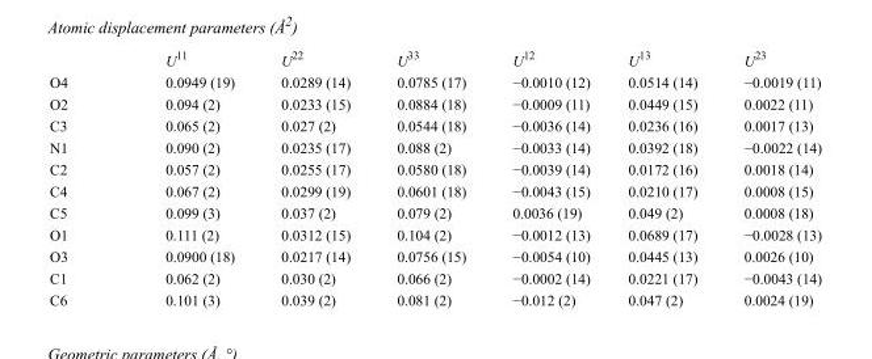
<table><thead><tr><td></td><td>U<sup>11</sup></td><td>U<sup>22</sup></td><td>U<sup>33</sup></td><td>U<sup>12</sup></td><td>U<sup>13</sup></td><td>U<sup>23</sup></td></tr></thead><tbody><tr><td>O4</td><td>0.0949 (19)</td><td>0.0289 (14)</td><td>0.0785 (17)</td><td>−0.0010 (12)</td><td>0.0514 (14)</td><td>−0.0019 (11)</td></tr><tr><td>O2</td><td>0.094 (2)</td><td>0.0233 (15)</td><td>0.0884 (18)</td><td>−0.0009 (11)</td><td>0.0449 (15)</td><td>0.0022 (11)</td></tr><tr><td>C3</td><td>0.065 (2)</td><td>0.027 (2)</td><td>0.0544 (18)</td><td>−0.0036 (14)</td><td>0.0236 (16)</td><td>0.0017 (13)</td></tr><tr><td>N1</td><td>0.090 (2)</td><td>0.0235 (17)</td><td>0.088 (2)</td><td>−0.0033 (14)</td><td>0.0392 (18)</td><td>−0.0022 (14)</td></tr><tr><td>C2</td><td>0.057 (2)</td><td>0.0255 (17)</td><td>0.0580 (18)</td><td>−0.0039 (14)</td><td>0.0172 (16)</td><td>0.0018 (14)</td></tr><tr><td>C4</td><td>0.067 (2)</td><td>0.0299 (19)</td><td>0.0601 (18)</td><td>−0.0043 (15)</td><td>0.0210 (17)</td><td>0.0008 (15)</td></tr><tr><td>C5</td><td>0.099 (3)</td><td>0.037 (2)</td><td>0.079 (2)</td><td>0.0036 (19)</td><td>0.049 (2)</td><td>0.0008 (18)</td></tr><tr><td>O1</td><td>0.111 (2)</td><td>0.0312 (15)</td><td>0.104 (2)</td><td>−0.0012 (13)</td><td>0.0689 (17)</td><td>−0.0028 (13)</td></tr><tr><td>O3</td><td>0.0900 (18)</td><td>0.0217 (14)</td><td>0.0756 (15)</td><td>−0.0054 (10)</td><td>0.0445 (13)</td><td>0.0026 (10)</td></tr><tr><td>C1</td><td>0.062 (2)</td><td>0.030 (2)</td><td>0.066 (2)</td><td>−0.0002 (14)</td><td>0.0221 (17)</td><td>−0.0043 (14)</td></tr><tr><td>C6</td><td>0.101 (3)</td><td>0.039 (2)</td><td>0.081 (2)</td><td>−0.012 (2)</td><td>0.047 (2)</td><td>0.0024 (19)</td></tr></tbody></table>